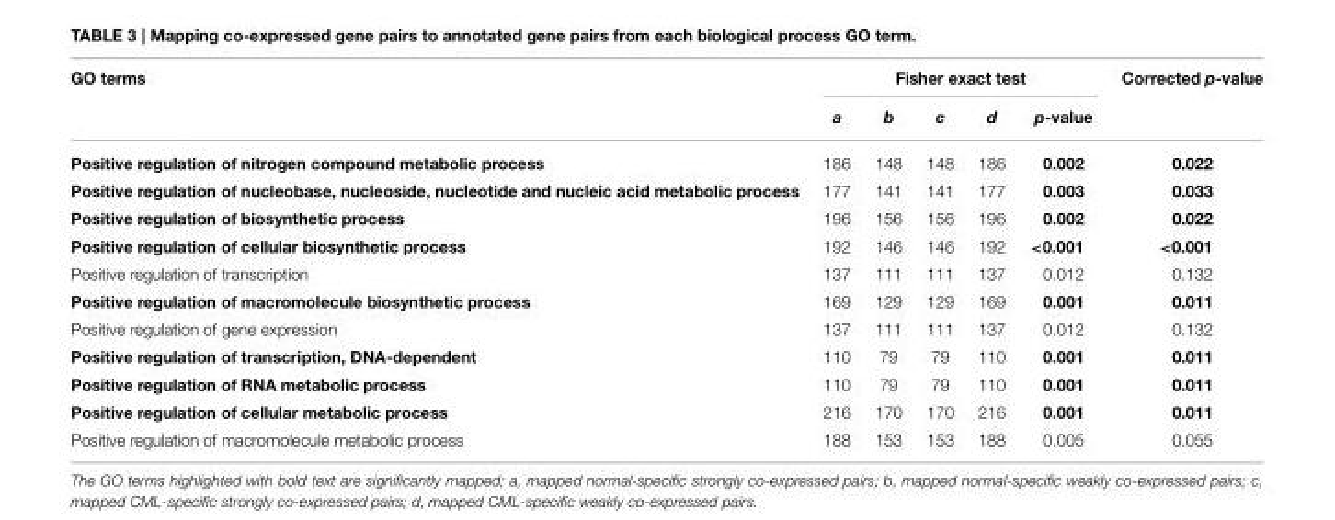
<table><thead><tr><td rowspan="2">GO terms</td><td colspan="5">Fisher exact test</td><td rowspan="2">Corrected p-value</td></tr><tr><td>a</td><td>b</td><td>c</td><td>d</td><td>p-value</td></tr></thead><tbody><tr><td>Positive regulation of nitrogen compound metabolic process</td><td>186</td><td>148</td><td>148</td><td>186</td><td>0.002</td><td>0.022</td></tr><tr><td>Positive regulation of nucleobase, nucleoside, nucleotide and nucleic acid metabolic process</td><td>177</td><td>141</td><td>141</td><td>177</td><td>0.003</td><td>0.033</td></tr><tr><td>Positive regulation of biosynthetic process</td><td>196</td><td>156</td><td>156</td><td>196</td><td>0.002</td><td>0.022</td></tr><tr><td>Positive regulation of cellular biosynthetic process</td><td>192</td><td>146</td><td>146</td><td>192</td><td>&lt;0.001</td><td>&lt;0.001</td></tr><tr><td>Positive regulation of transcription</td><td>137</td><td>111</td><td>111</td><td>137</td><td>0.012</td><td>0.132</td></tr><tr><td>Positive regulation of macromolecule biosynthetic process</td><td>169</td><td>129</td><td>129</td><td>169</td><td>0.001</td><td>0.011</td></tr><tr><td>Positive regulation of gene expression</td><td>137</td><td>111</td><td>111</td><td>137</td><td>0.012</td><td>0.132</td></tr><tr><td>Positive regulation of transcription, DNA-dependent</td><td>110</td><td>79</td><td>79</td><td>110</td><td>0.001</td><td>0.011</td></tr><tr><td>Positive regulation of RNA metabolic process</td><td>110</td><td>79</td><td>79</td><td>110</td><td>0.001</td><td>0.011</td></tr><tr><td>Positive regulation of cellular metabolic process</td><td>216</td><td>170</td><td>170</td><td>216</td><td>0.001</td><td>0.011</td></tr><tr><td>Positive regulation of macromolecule metabolic process</td><td>188</td><td>153</td><td>153</td><td>188</td><td>0.005</td><td>0.055</td></tr></tbody></table>